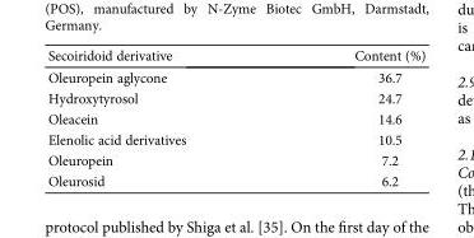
<table><thead><tr><td>Secoiridoid derivative</td><td>Content (%)</td></tr></thead><tbody><tr><td>Oleuropein aglycone</td><td>36.7</td></tr><tr><td>Hydroxytyrosol</td><td>24.7</td></tr><tr><td>Oleacein</td><td>14.6</td></tr><tr><td>Elenolic acid derivatives</td><td>10.5</td></tr><tr><td>Oleuropein</td><td>7.2</td></tr><tr><td>Oleurosid</td><td>6.2</td></tr></tbody></table>